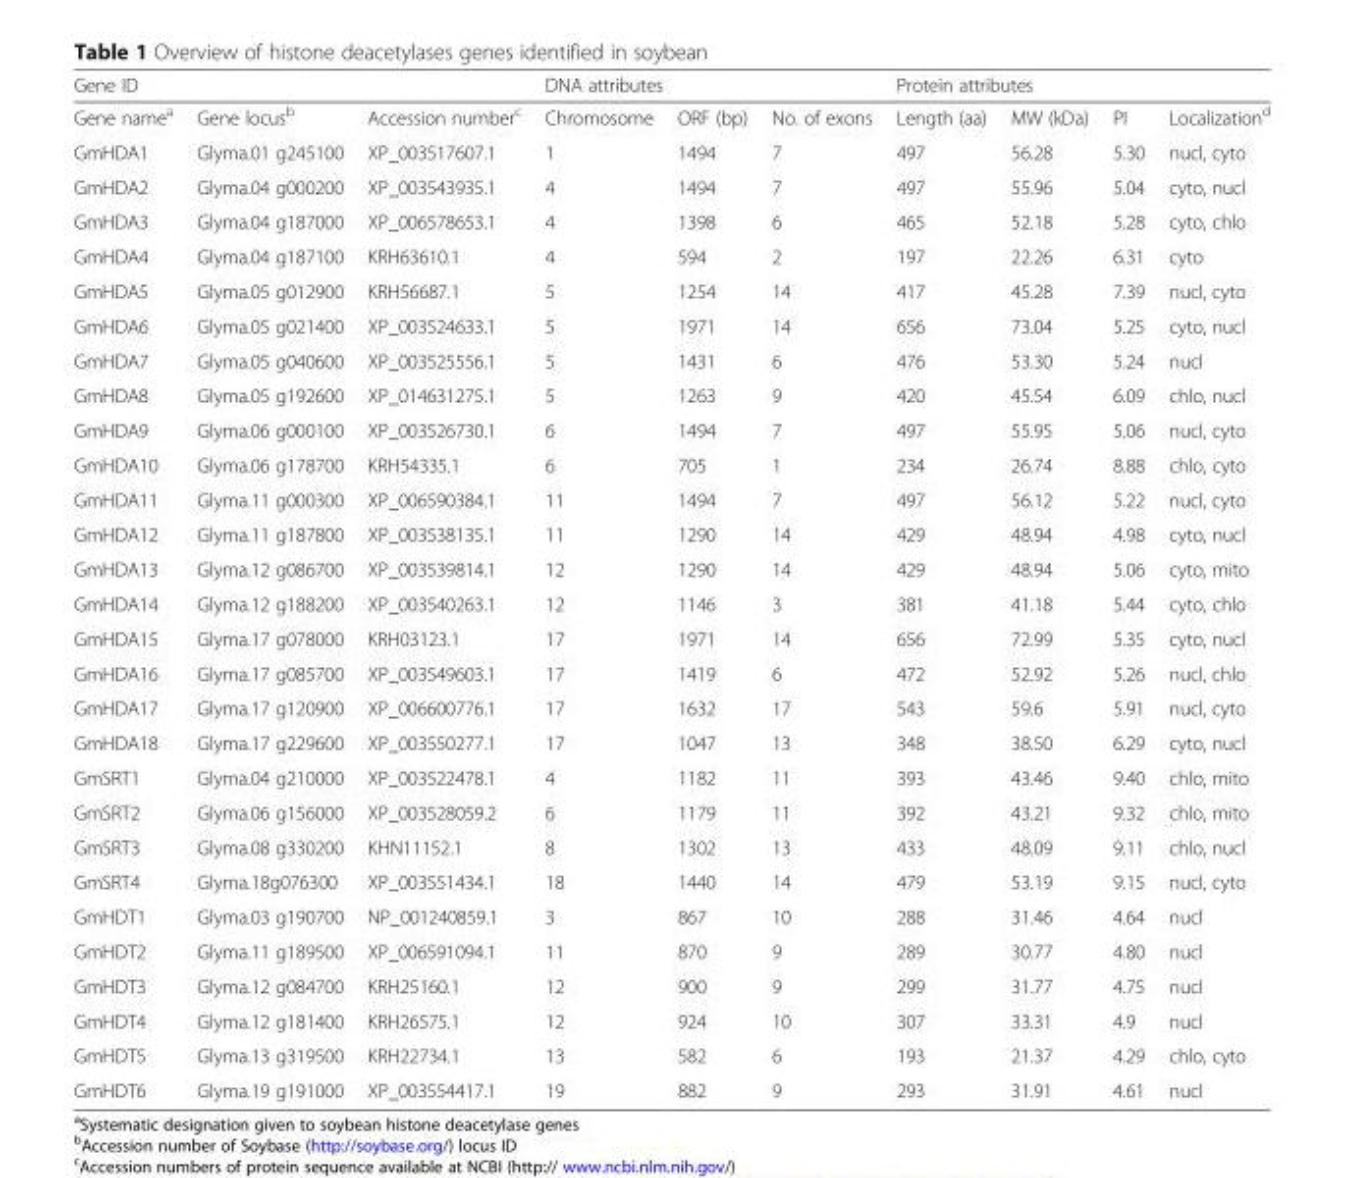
<table><thead><tr><td colspan="3">Gene ID</td><td colspan="3">DNA attributes</td><td colspan="4">Protein attributes</td></tr><tr><td>Gene name<sup>a</sup></td><td>Gene locus<sup>b</sup></td><td>Accession number<sup>c</sup></td><td>Chromosome</td><td>ORF (bp)</td><td>No. of exons</td><td>Length (aa)</td><td>MW (kDa)</td><td>PI</td><td>Localization<sup>d</sup></td></tr></thead><tbody><tr><td>GmHDA1</td><td>Glyma.01 g245100</td><td>XP_003517607.1</td><td>1</td><td>1494</td><td>7</td><td>497</td><td>56.28</td><td>5.30</td><td>nucl, cyto</td></tr><tr><td>GmHDA2</td><td>Glyma.04 g000200</td><td>XP_003543935.1</td><td>4</td><td>1494</td><td>7</td><td>497</td><td>55.96</td><td>5.04</td><td>cyto, nucl</td></tr><tr><td>GmHDA3</td><td>Glyma.04 g187000</td><td>XP_006578653.1</td><td>4</td><td>1398</td><td>6</td><td>465</td><td>52.18</td><td>5.28</td><td>cyto, chlo</td></tr><tr><td>GmHDA4</td><td>Glyma.04 g187100</td><td>KRH63610.1</td><td>4</td><td>594</td><td>2</td><td>197</td><td>22.26</td><td>6.31</td><td>cyto</td></tr><tr><td>GmHDA5</td><td>Glyma.05 g012900</td><td>KRH56687.1</td><td>5</td><td>1254</td><td>14</td><td>417</td><td>45.28</td><td>7.39</td><td>nucl, cyto</td></tr><tr><td>GmHDA6</td><td>Glyma.05 g021400</td><td>XP_003524633.1</td><td>5</td><td>1971</td><td>14</td><td>656</td><td>73.04</td><td>5.25</td><td>cyto, nucl</td></tr><tr><td>GmHDA7</td><td>Glyma.05 g040600</td><td>XP_003525556.1</td><td>5</td><td>1431</td><td>6</td><td>476</td><td>53.30</td><td>5.24</td><td>nucl</td></tr><tr><td>GmHDA8</td><td>Glyma.05 g192600</td><td>XP_014631275.1</td><td>5</td><td>1263</td><td>9</td><td>420</td><td>45.54</td><td>6.09</td><td>chlo, nucl</td></tr><tr><td>GmHDA9</td><td>Glyma.06 g000100</td><td>XP_003526730.1</td><td>6</td><td>1494</td><td>7</td><td>497</td><td>55.95</td><td>5.06</td><td>nucl, cyto</td></tr><tr><td>GmHDA10</td><td>Glyma.06 g178700</td><td>KRH54335.1</td><td>6</td><td>705</td><td>1</td><td>234</td><td>26.74</td><td>8.88</td><td>chlo, cyto</td></tr><tr><td>GmHDA11</td><td>Glyma.11 g000300</td><td>XP_006590384.1</td><td>11</td><td>1494</td><td>7</td><td>497</td><td>56.12</td><td>5.22</td><td>nucl, cyto</td></tr><tr><td>GmHDA12</td><td>Glyma.11 g187800</td><td>XP_003538135.1</td><td>11</td><td>1290</td><td>14</td><td>429</td><td>48.94</td><td>4.98</td><td>cyto, nucl</td></tr><tr><td>GmHDA13</td><td>Glyma.12 g086700</td><td>XP_003539814.1</td><td>12</td><td>1290</td><td>14</td><td>429</td><td>48.94</td><td>5.06</td><td>cyto, mito</td></tr><tr><td>GmHDA14</td><td>Glyma.12 g188200</td><td>XP_003540263.1</td><td>12</td><td>1146</td><td>3</td><td>381</td><td>41.18</td><td>5.44</td><td>cyto, chlo</td></tr><tr><td>GmHDA15</td><td>Glyma.17 g078000</td><td>KRH03123.1</td><td>17</td><td>1971</td><td>14</td><td>656</td><td>72.99</td><td>5.35</td><td>cyto, nucl</td></tr><tr><td>GmHDA16</td><td>Glyma.17 g085700</td><td>XP_003549603.1</td><td>17</td><td>1419</td><td>6</td><td>472</td><td>52.92</td><td>5.26</td><td>nucl, chlo</td></tr><tr><td>GmHDA17</td><td>Glyma.17 g120900</td><td>XP_006600776.1</td><td>17</td><td>1632</td><td>17</td><td>543</td><td>59.6</td><td>5.91</td><td>nucl, cyto</td></tr><tr><td>GmHDA18</td><td>Glyma.17 g229600</td><td>XP_003550277.1</td><td>17</td><td>1047</td><td>13</td><td>348</td><td>38.50</td><td>6.29</td><td>cyto, nucl</td></tr><tr><td>GmSRT1</td><td>Glyma.04 g210000</td><td>XP_003522478.1</td><td>4</td><td>1182</td><td>11</td><td>393</td><td>43.46</td><td>9.40</td><td>chlo, mito</td></tr><tr><td>GmSRT2</td><td>Glyma.06 g156000</td><td>XP_003528059.2</td><td>6</td><td>1179</td><td>11</td><td>392</td><td>43.21</td><td>9.32</td><td>chlo, mito</td></tr><tr><td>GmSRT3</td><td>Glyma.08 g330200</td><td>KHN11152.1</td><td>8</td><td>1302</td><td>13</td><td>433</td><td>48.09</td><td>9.11</td><td>chlo, nucl</td></tr><tr><td>GmSRT4</td><td>Glyma.18g076300</td><td>XP_003551434.1</td><td>18</td><td>1440</td><td>14</td><td>479</td><td>53.19</td><td>9.15</td><td>nucl, cyto</td></tr><tr><td>GmHDT1</td><td>Glyma.03 g190700</td><td>NP_001240859.1</td><td>3</td><td>867</td><td>10</td><td>288</td><td>31.46</td><td>4.64</td><td>nucl</td></tr><tr><td>GmHDT2</td><td>Glyma.11 g189500</td><td>XP_006591094.1</td><td>11</td><td>870</td><td>9</td><td>289</td><td>30.77</td><td>4.80</td><td>nucl</td></tr><tr><td>GmHDT3</td><td>Glyma.12 g084700</td><td>KRH25160.1</td><td>12</td><td>900</td><td>9</td><td>299</td><td>31.77</td><td>4.75</td><td>nucl</td></tr><tr><td>GmHDT4</td><td>Glyma.12 g181400</td><td>KRH26575.1</td><td>12</td><td>924</td><td>10</td><td>307</td><td>33.31</td><td>4.9</td><td>nucl</td></tr><tr><td>GmHDT5</td><td>Glyma.13 g319500</td><td>KRH22734.1</td><td>13</td><td>582</td><td>6</td><td>193</td><td>21.37</td><td>4.29</td><td>chlo, cyto</td></tr><tr><td>GmHDT6</td><td>Glyma.19 g191000</td><td>XP_003554417.1</td><td>19</td><td>882</td><td>9</td><td>293</td><td>31.91</td><td>4.61</td><td>nucl</td></tr></tbody></table>